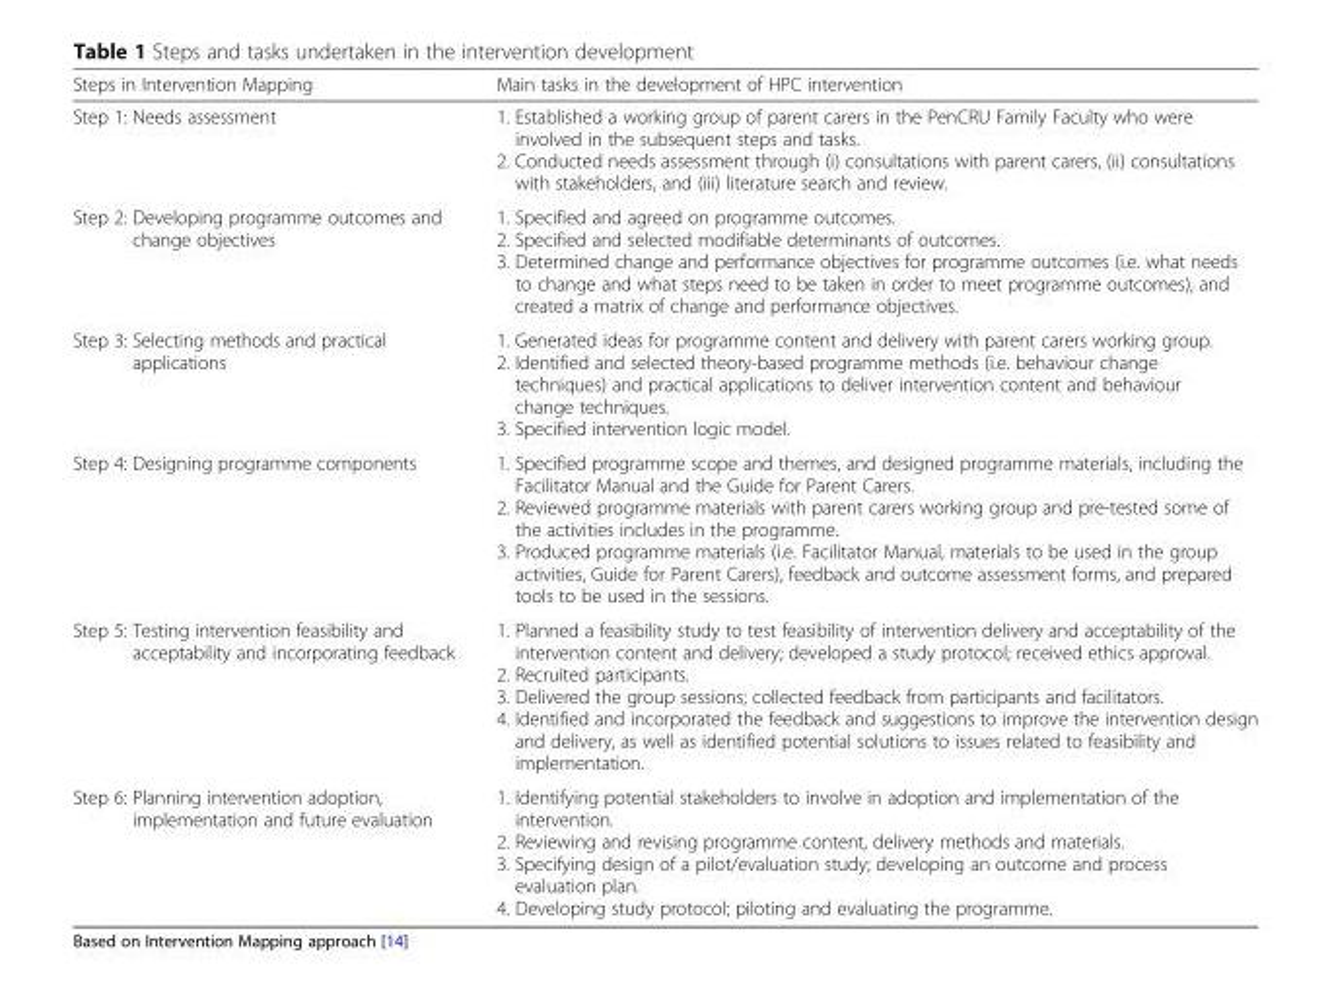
<table><thead><tr><td>Steps in Intervention Mapping</td><td>Main tasks in the development of HPC intervention</td></tr></thead><tbody><tr><td>Step 1: Needs assessment</td><td>1. Established a working group of parent carers in the PenCRU Family Faculty who were involved in the subsequent steps and tasks. 2. Conducted needs assessment through (i) consultations with parent carers, (ii) consultations with stakeholders, and (iii) literature search and review.</td></tr><tr><td>Step 2: Developing programme outcomes and change objectives</td><td>1. Specified and agreed on programme outcomes. 2. Specified and selected modifiable determinants of outcomes. 3. Determined change and performance objectives for programme outcomes (i.e. what needs to change and what steps need to be taken in order to meet programme outcomes), and created a matrix of change and performance objectives.</td></tr><tr><td>Step 3: Selecting methods and practical applications</td><td>1. Generated ideas for programme content and delivery with parent carers working group. 2. Identified and selected theory-based programme methods (i.e. behaviour change techniques) and practical applications to deliver intervention content and behaviour change techniques. 3. Specified intervention logic model.</td></tr><tr><td>Step 4: Designing programme components</td><td>1. Specified programme scope and themes, and designed programme materials, including the Facilitator Manual and the Guide for Parent Carers. 2. Reviewed programme materials with parent carers working group and pre-tested some of the activities includes in the programme. 3. Produced programme materials (i.e. Facilitator Manual, materials to be used in the group activities, Guide for Parent Carers), feedback and outcome assessment forms, and prepared tools to be used in the sessions.</td></tr><tr><td>Step 5: Testing intervention feasibility and acceptability and incorporating feedback</td><td>1. Planned a feasibility study to test feasibility of intervention delivery and acceptability of the intervention content and delivery; developed a study protocol; received ethics approval. 2. Recruited participants. 3. Delivered the group sessions; collected feedback from participants and facilitators. 4. Identified and incorporated the feedback and suggestions to improve the intervention design and delivery, as well as identified potential solutions to issues related to feasibility and implementation.</td></tr><tr><td>Step 6: Planning intervention adoption, implementation and future evaluation</td><td>1. Identifying potential stakeholders to involve in adoption and implementation of the intervention. 2. Reviewing and revising programme content, delivery methods and materials. 3. Specifying design of a pilot/evaluation study; developing an outcome and process evaluation plan. 4. Developing study protocol; piloting and evaluating the programme.</td></tr></tbody></table>